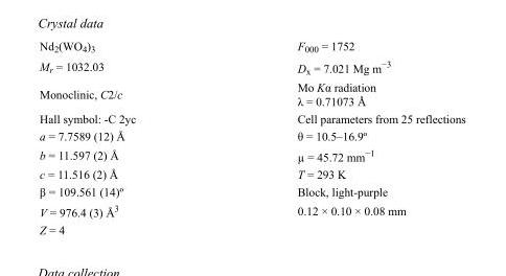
<table><tbody><tr><td>Nd<sub>2</sub>(WO<sub>4</sub>)<sub>3</sub></td><td>F000 = 1752</td></tr><tr><td>M<sub>r</sub> = 1032.03</td><td>D<sub>x</sub> = 7.021 Mg m<sup>−3</sup></td></tr><tr><td>Monoclinic, C2/c</td><td>Mo Kα radiation λ = 0.71073 Å</td></tr><tr><td>Hall symbol: -C 2yc</td><td>Cell parameters from 25 reflections</td></tr><tr><td>a = 7.7589 (12) Å</td><td>θ = 10.5–16.9º</td></tr><tr><td>b = 11.597 (2) Å</td><td>µ = 45.72 mm<sup>−1</sup></td></tr><tr><td>c = 11.516 (2) Å</td><td>T = 293 K</td></tr><tr><td>β = 109.561 (14)º</td><td>Block, light-purple</td></tr><tr><td>V = 976.4 (3) Å<sup>3</sup></td><td>0.12 × 0.10 × 0.08 mm</td></tr><tr><td>Z = 4</td><td></td></tr></tbody></table>